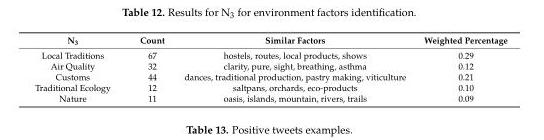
<table><thead><tr><td>N<sub>3</sub></td><td>Count</td><td>Similar Factors</td><td>Weighted Percentage</td></tr></thead><tbody><tr><td>Local Traditions</td><td>67</td><td>hostels, routes, local products, shows</td><td>0.29</td></tr><tr><td>Air Quality</td><td>32</td><td>clarity, pure, sight, breathing, asthma</td><td>0.12</td></tr><tr><td>Customs</td><td>44</td><td>dances, traditional production, pastry making, viticulture</td><td>0.21</td></tr><tr><td>Traditional Ecology</td><td>12</td><td>saltpans, orchards, eco-products</td><td>0.10</td></tr><tr><td>Nature</td><td>11</td><td>oasis, islands, mountain, rivers, trails</td><td>0.09</td></tr></tbody></table>